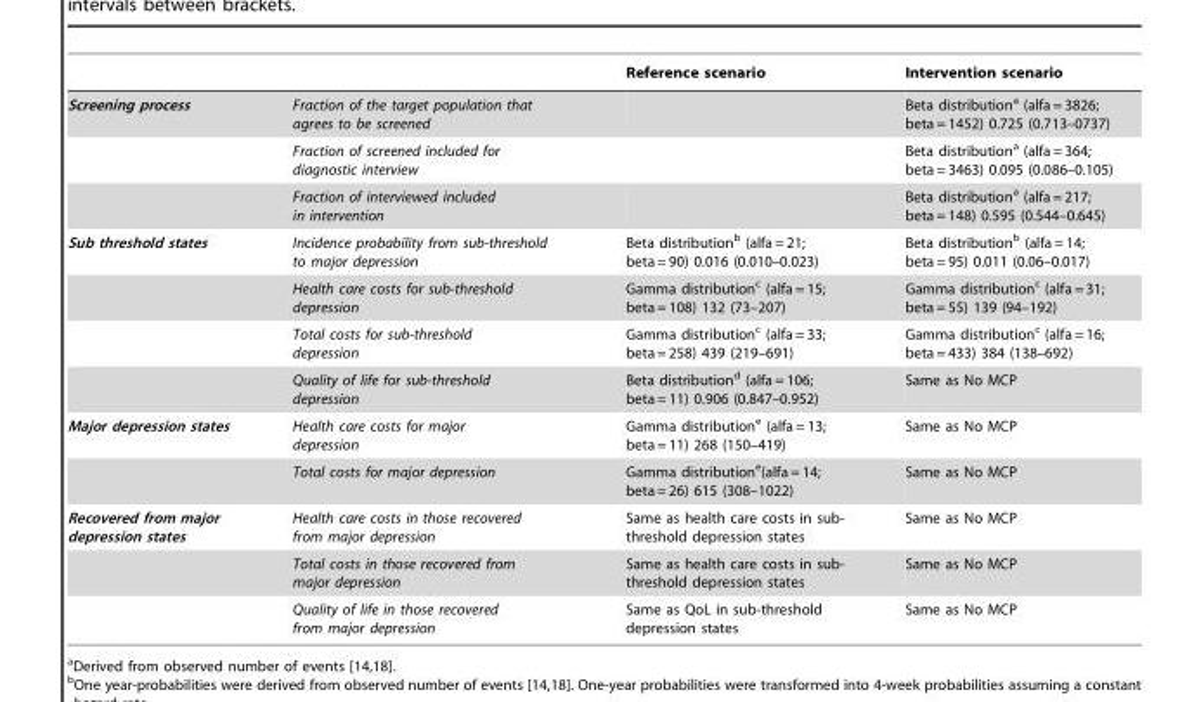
<table><thead><tr><td></td><td></td><td>Reference scenario</td><td>Intervention scenario</td></tr></thead><tbody><tr><td rowspan="3">Screening process</td><td>Fraction of the target population that agrees to be screened</td><td></td><td>Beta distribution<sup>a</sup> (alfa = 3826; beta = 1452) 0.725 (0.713–0737)</td></tr><tr><td>Fraction of screened included for diagnostic interview</td><td></td><td>Beta distribution<sup>a</sup> (alfa = 364; beta = 3463) 0.095 (0.086–0.105)</td></tr><tr><td>Fraction of interviewed included in intervention</td><td></td><td>Beta distribution<sup>a</sup> (alfa = 217; beta = 148) 0.595 (0.544–0.645)</td></tr><tr><td rowspan="4">Sub threshold states</td><td>Incidence probability from sub-threshold to major depression</td><td>Beta distribution<sup>b</sup> (alfa = 21; beta = 90) 0.016 (0.010–0.023)</td><td>Beta distribution<sup>b</sup> (alfa = 14; beta = 95) 0.011 (0.06–0.017)</td></tr><tr><td>Health care costs for sub-threshold depression</td><td>Gamma distribution<sup>c</sup> (alfa = 15; beta = 108) 132 (73–207)</td><td>Gamma distribution<sup>c</sup> (alfa = 31; beta = 55) 139 (94–192)</td></tr><tr><td>Total costs for sub-threshold depression</td><td>Gamma distribution<sup>c</sup> (alfa = 33; beta = 258) 439 (219–691)</td><td>Gamma distribution<sup>c</sup> (alfa = 16; beta = 433) 384 (138–692)</td></tr><tr><td>Quality of life for sub-threshold depression</td><td>Beta distribution<sup>d</sup> (alfa = 106; beta = 11) 0.906 (0.847–0.952)</td><td>Same as No MCP</td></tr><tr><td rowspan="2">Major depression states</td><td>Health care costs for major depression</td><td>Gamma distribution<sup>e</sup> (alfa = 13; beta = 11) 268 (150–419)</td><td>Same as No MCP</td></tr><tr><td>Total costs for major depression</td><td>Gamma distribution<sup>e</sup>(alfa = 14; beta = 26) 615 (308–1022)</td><td>Same as No MCP</td></tr><tr><td rowspan="3">Recovered from major depression states</td><td>Health care costs in those recovered from major depression</td><td>Same as health care costs in sub- threshold depression states</td><td>Same as No MCP</td></tr><tr><td>Total costs in those recovered from major depression</td><td>Same as health care costs in sub- threshold depression states</td><td>Same as No MCP</td></tr><tr><td>Quality of life in those recovered from major depression</td><td>Same as QoL in sub-threshold depression states</td><td>Same as No MCP</td></tr></tbody></table>